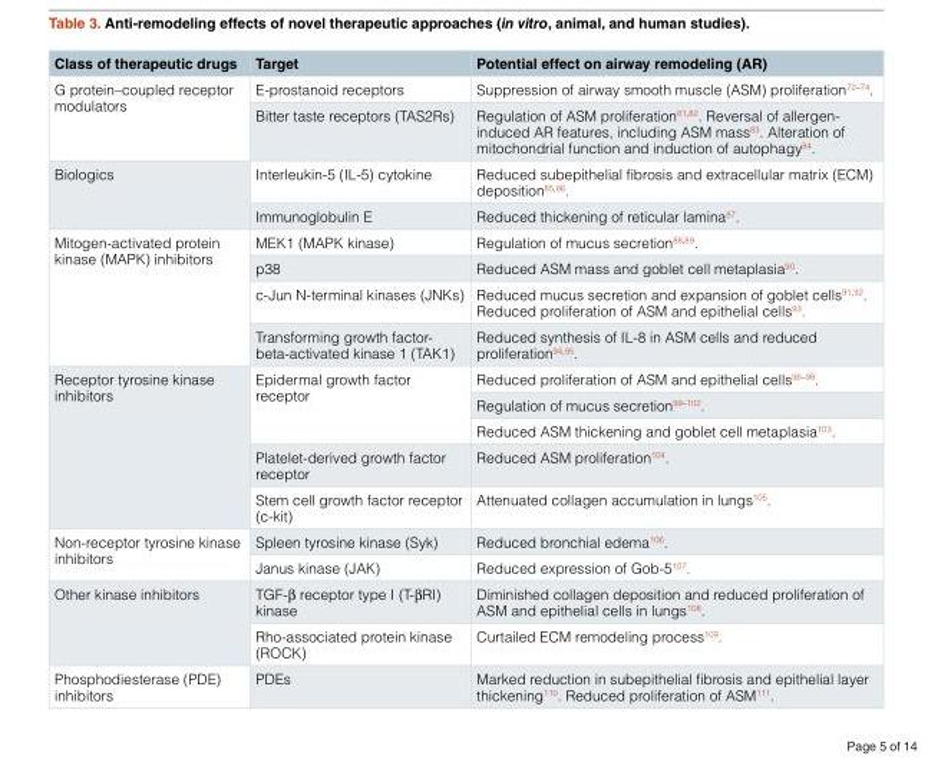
<table><thead><tr><td>Class of therapeutic drugs</td><td>Target</td><td>Potential effect on airway remodeling (AR)</td></tr></thead><tbody><tr><td rowspan="2">G protein–coupled receptor modulators</td><td>E-prostanoid receptors</td><td>Suppression of airway smooth muscle (ASM) proliferation<sup>72–74</sup>.</td></tr><tr><td>Bitter taste receptors (TAS2Rs)</td><td>Regulation of ASM proliferation<sup>81,82</sup>. Reversal of allergen- induced AR features, including ASM mass<sup>83</sup>. Alteration of mitochondrial function and induction of autophagy<sup>84</sup>.</td></tr><tr><td rowspan="2">Biologics</td><td>Interleukin-5 (IL-5) cytokine</td><td>Reduced subepithelial fibrosis and extracellular matrix (ECM) deposition<sup>85,86</sup>.</td></tr><tr><td>Immunoglobulin E</td><td>Reduced thickening of reticular lamina<sup>87</sup>.</td></tr><tr><td rowspan="4">Mitogen-activated protein kinase (MAPK) inhibitors</td><td>MEK1 (MAPK kinase)</td><td>Regulation of mucus secretion<sup>88,89</sup>.</td></tr><tr><td>p38</td><td>Reduced ASM mass and goblet cell metaplasia<sup>90</sup>.</td></tr><tr><td>c-Jun N-terminal kinases (JNKs)</td><td>Reduced mucus secretion and expansion of goblet cells<sup>91,92</sup>. Reduced proliferation of ASM and epithelial cells<sup>93</sup>.</td></tr><tr><td>Transforming growth factor- beta-activated kinase 1 (TAK1)</td><td>Reduced synthesis of IL-8 in ASM cells and reduced proliferation<sup>94,95</sup>.</td></tr><tr><td rowspan="5">Receptor tyrosine kinase inhibitors</td><td rowspan="3">Epidermal growth factor receptor</td><td>Reduced proliferation of ASM and epithelial cells<sup>96–98</sup>.</td></tr><tr><td>Regulation of mucus secretion<sup>99–102</sup>.</td></tr><tr><td>Reduced ASM thickening and goblet cell metaplasia<sup>103</sup>.</td></tr><tr><td>Platelet-derived growth factor receptor</td><td>Reduced ASM proliferation<sup>104</sup>.</td></tr><tr><td>Stem cell growth factor receptor (c-kit)</td><td>Attenuated collagen accumulation in lungs<sup>105</sup>.</td></tr><tr><td rowspan="2">Non-receptor tyrosine kinase inhibitors</td><td>Spleen tyrosine kinase (Syk)</td><td>Reduced bronchial edema<sup>106</sup>.</td></tr><tr><td>Janus kinase (JAK)</td><td>Reduced expression of Gob-5<sup>107</sup>.</td></tr><tr><td rowspan="2">Other kinase inhibitors</td><td>TGF-β receptor type I (T-βRI) kinase</td><td>Diminished collagen deposition and reduced proliferation of ASM and epithelial cells in lungs<sup>108</sup>.</td></tr><tr><td>Rho-associated protein kinase (ROCK)</td><td>Curtailed ECM remodeling process<sup>109</sup>.</td></tr><tr><td>Phosphodiesterase (PDE) inhibitors</td><td>PDEs</td><td>Marked reduction in subepithelial fibrosis and epithelial layer thickening<sup>110</sup>. Reduced proliferation of ASM<sup>111</sup>.</td></tr></tbody></table>